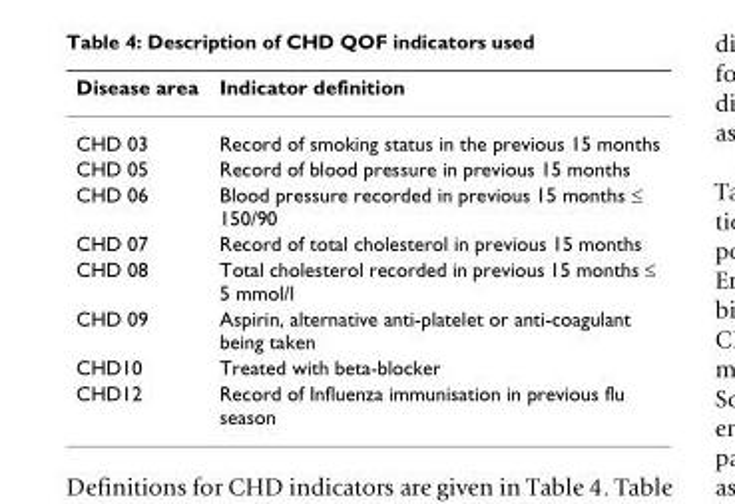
<table><thead><tr><td>Disease area</td><td>Indicator definition</td></tr></thead><tbody><tr><td>CHD 03</td><td>Record of smoking status in the previous 15 months</td></tr><tr><td>CHD 05</td><td>Record of blood pressure in previous 15 months</td></tr><tr><td>CHD 06</td><td>Blood pressure recorded in previous 15 months ≤ 150/90</td></tr><tr><td>CHD 07</td><td>Record of total cholesterol in previous 15 months</td></tr><tr><td>CHD 08</td><td>Total cholesterol recorded in previous 15 months ≤ 5 mmol/l</td></tr><tr><td>CHD 09</td><td>Aspirin, alternative anti-platelet or anti-coagulant being taken</td></tr><tr><td>CHD10</td><td>Treated with beta-blocker</td></tr><tr><td>CHD12</td><td>Record of Influenza immunisation in previous flu season</td></tr></tbody></table>